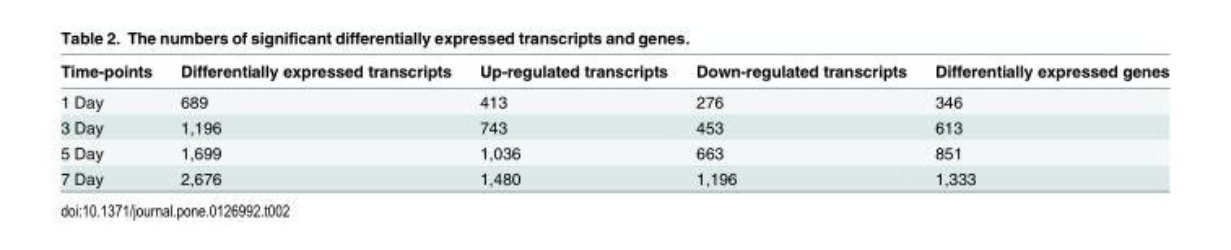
<table><thead><tr><td>Time-points</td><td>Differentially expressed transcripts</td><td>Up-regulated transcripts</td><td>Down-regulated transcripts</td><td>Differentially expressed genes</td></tr></thead><tbody><tr><td>1 Day</td><td>689</td><td>413</td><td>276</td><td>346</td></tr><tr><td>3 Day</td><td>1,196</td><td>743</td><td>453</td><td>613</td></tr><tr><td>5 Day</td><td>1,699</td><td>1,036</td><td>663</td><td>851</td></tr><tr><td>7 Day</td><td>2,676</td><td>1,480</td><td>1,196</td><td>1,333</td></tr></tbody></table>